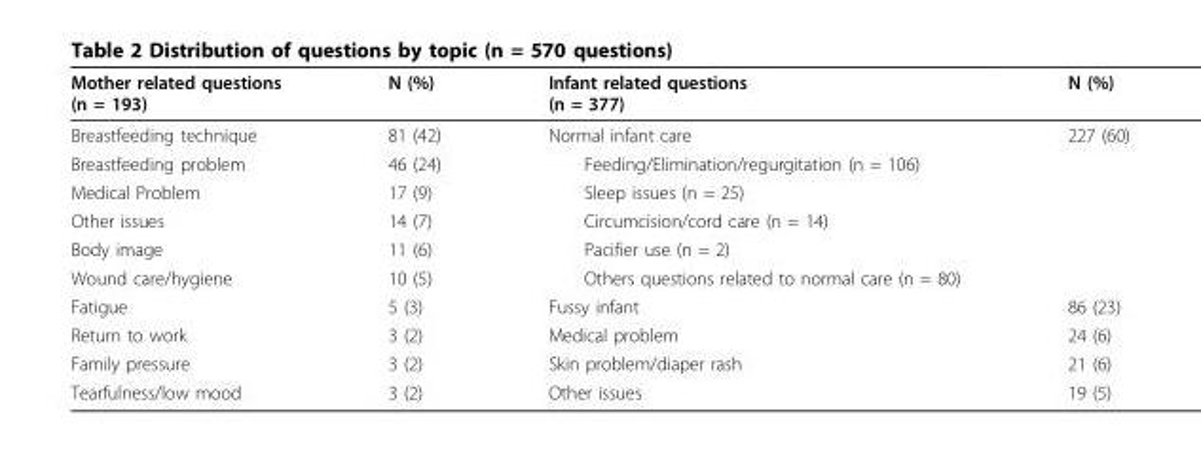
<table><thead><tr><td>Mother related questions (n = 193)</td><td>N (%)</td><td>Infant related questions (n = 377)</td><td>N (%)</td></tr></thead><tbody><tr><td>Breastfeeding technique</td><td>81 (42)</td><td>Normal infant care</td><td>227 (60)</td></tr><tr><td>Breastfeeding problem</td><td>46 (24)</td><td>Feeding/Elimination/regurgitation (n = 106)</td><td></td></tr><tr><td>Medical Problem</td><td>17 (9)</td><td>Sleep issues (n = 25)</td><td></td></tr><tr><td>Other issues</td><td>14 (7)</td><td>Circumcision/cord care (n = 14)</td><td></td></tr><tr><td>Body image</td><td>11 (6)</td><td>Pacifier use (n = 2)</td><td></td></tr><tr><td>Wound care/hygiene</td><td>10 (5)</td><td>Others questions related to normal care (n = 80)</td><td></td></tr><tr><td>Fatigue</td><td>5 (3)</td><td>Fussy infant</td><td>86 (23)</td></tr><tr><td>Return to work</td><td>3 (2)</td><td>Medical problem</td><td>24 (6)</td></tr><tr><td>Family pressure</td><td>3 (2)</td><td>Skin problem/diaper rash</td><td>21 (6)</td></tr><tr><td>Tearfulness/low mood</td><td>3 (2)</td><td>Other issues</td><td>19 (5)</td></tr></tbody></table>